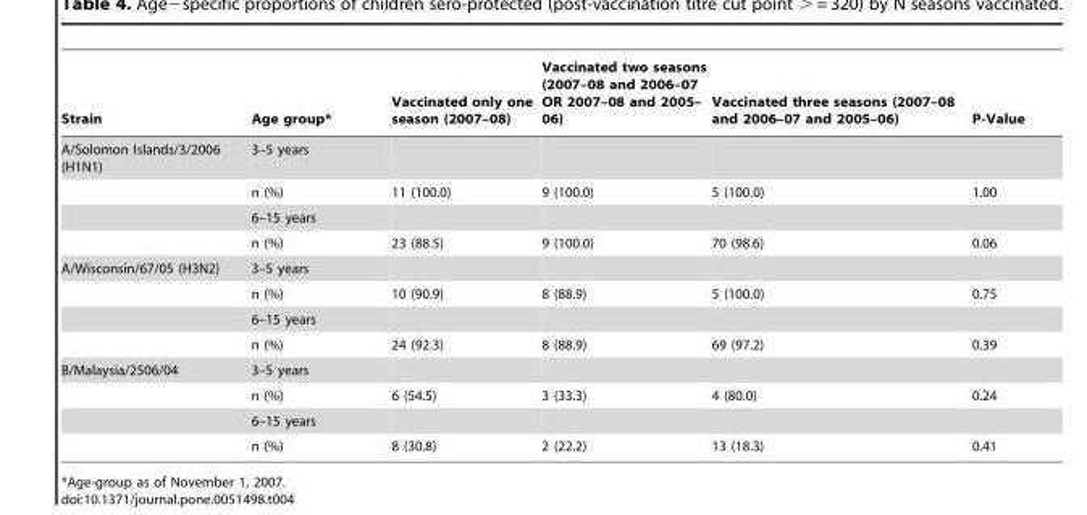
<table><thead><tr><td>Strain</td><td>Age group*</td><td>Vaccinated only one season (2007–08)</td><td>Vaccinated two seasons (2007–08 and 2006–07 OR 2007–08 and 2005– 06)</td><td>Vaccinated three seasons (2007–08 and 2006–07 and 2005–06)</td><td>P-Value</td></tr></thead><tbody><tr><td rowspan="4">A/Solomon Islands/3/2006 (H1N1)</td><td>3–5 years</td><td></td><td></td><td></td><td></td></tr><tr><td>n (%)</td><td>11 (100.0)</td><td>9 (100.0)</td><td>5 (100.0)</td><td>1.00</td></tr><tr><td>6–15 years</td><td></td><td></td><td></td><td></td></tr><tr><td>n (%)</td><td>23 (88.5)</td><td>9 (100.0)</td><td>70 (98.6)</td><td>0.06</td></tr><tr><td rowspan="4">A/Wisconsin/67/05 (H3N2)</td><td>3–5 years</td><td></td><td></td><td></td><td></td></tr><tr><td>n (%)</td><td>10 (90.9)</td><td>8 (88.9)</td><td>5 (100.0)</td><td>0.75</td></tr><tr><td>6–15 years</td><td></td><td></td><td></td><td></td></tr><tr><td>n (%)</td><td>24 (92.3)</td><td>8 (88.9)</td><td>69 (97.2)</td><td>0.39</td></tr><tr><td rowspan="4">B/Malaysia/2506/04</td><td>3–5 years</td><td></td><td></td><td></td><td></td></tr><tr><td>n (%)</td><td>6 (54.5)</td><td>3 (33.3)</td><td>4 (80.0)</td><td>0.24</td></tr><tr><td>6–15 years</td><td></td><td></td><td></td><td></td></tr><tr><td>n (%)</td><td>8 (30.8)</td><td>2 (22.2)</td><td>13 (18.3)</td><td>0.41</td></tr></tbody></table>